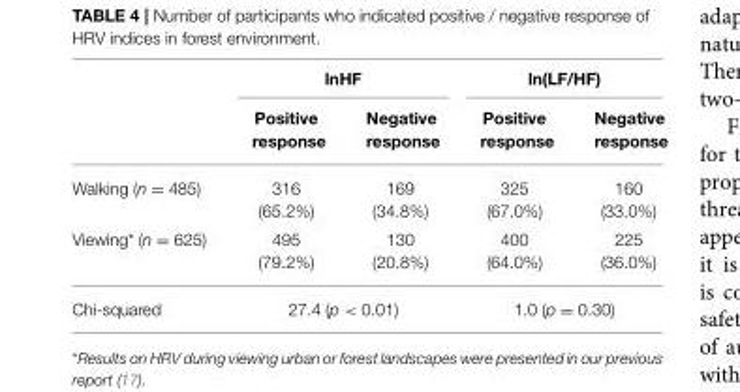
<table><thead><tr><td rowspan="2"></td><td colspan="2">lnHF</td><td colspan="2">ln(LF/HF)</td></tr><tr><td>Positive response</td><td>Negative response</td><td>Positive response</td><td>Negative response</td></tr></thead><tbody><tr><td>Walking (n = 485)</td><td>316 (65.2%)</td><td>169 (34.8%)</td><td>325 (67.0%)</td><td>160 (33.0%)</td></tr><tr><td>Viewing* (n = 625)</td><td>495 (79.2%)</td><td>130 (20.8%)</td><td>400 (64.0%)</td><td>225 (36.0%)</td></tr><tr><td>Chi-squared</td><td colspan="2">27.4 (p &lt; 0.01)</td><td colspan="2">1.0 (p = 0.30)</td></tr></tbody></table>